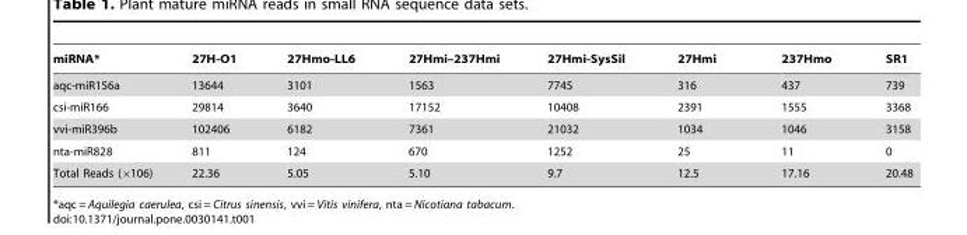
<table><thead><tr><td>miRNA*</td><td>27H-O1</td><td>27Hmo-LL6</td><td>27Hmi–237Hmi</td><td>27Hmi-SysSil</td><td>27Hmi</td><td>237Hmo</td><td>SR1</td></tr></thead><tbody><tr><td>aqc-miR156a</td><td>13644</td><td>3101</td><td>1563</td><td>7745</td><td>316</td><td>437</td><td>739</td></tr><tr><td>csi-miR166</td><td>29814</td><td>3640</td><td>17152</td><td>10408</td><td>2391</td><td>1555</td><td>3368</td></tr><tr><td>vvi-miR396b</td><td>102406</td><td>6182</td><td>7361</td><td>21032</td><td>1034</td><td>1046</td><td>3158</td></tr><tr><td>nta-miR828</td><td>811</td><td>124</td><td>670</td><td>1252</td><td>25</td><td>11</td><td>0</td></tr><tr><td>Total Reads (×106)</td><td>22.36</td><td>5.05</td><td>5.10</td><td>9.7</td><td>12.5</td><td>17.16</td><td>20.48</td></tr></tbody></table>